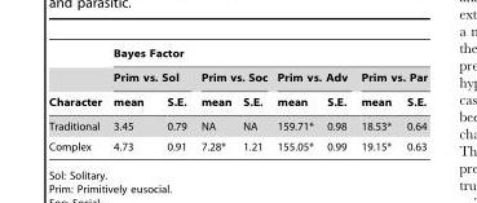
<table><thead><tr><td rowspan="3">Character</td><td colspan="8">Bayes Factor</td></tr><tr><td colspan="2">Prim vs. Sol</td><td colspan="2">Prim vs. Soc</td><td colspan="2">Prim vs. Adv</td><td colspan="2">Prim vs. Par</td></tr><tr><td>mean</td><td>S.E.</td><td>mean</td><td>S.E.</td><td>mean</td><td>S.E.</td><td>mean</td><td>S.E.</td></tr></thead><tbody><tr><td>Traditional</td><td>3.45</td><td>0.79</td><td>NA</td><td>NA</td><td>159.71*</td><td>0.98</td><td>18.53*</td><td>0.64</td></tr><tr><td>Complex</td><td>4.73</td><td>0.91</td><td>7.28*</td><td>1.21</td><td>155.05*</td><td>0.99</td><td>19.15*</td><td>0.63</td></tr></tbody></table>